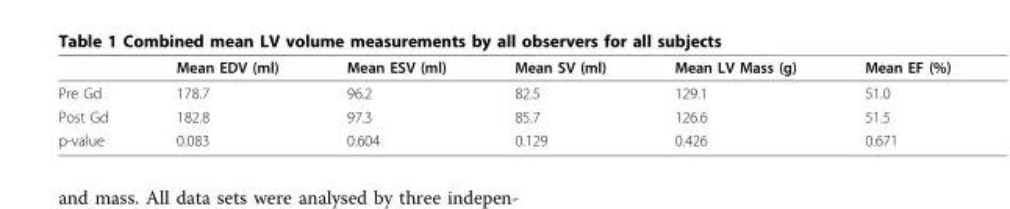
<table><thead><tr><td></td><td>Mean EDV (ml)</td><td>Mean ESV (ml)</td><td>Mean SV (ml)</td><td>Mean LV Mass (g)</td><td>Mean EF (%)</td></tr></thead><tbody><tr><td>Pre Gd</td><td>178.7</td><td>96.2</td><td>82.5</td><td>129.1</td><td>51.0</td></tr><tr><td>Post Gd</td><td>182.8</td><td>97.3</td><td>85.7</td><td>126.6</td><td>51.5</td></tr><tr><td>p-value</td><td>0.083</td><td>0.604</td><td>0.129</td><td>0.426</td><td>0.671</td></tr></tbody></table>